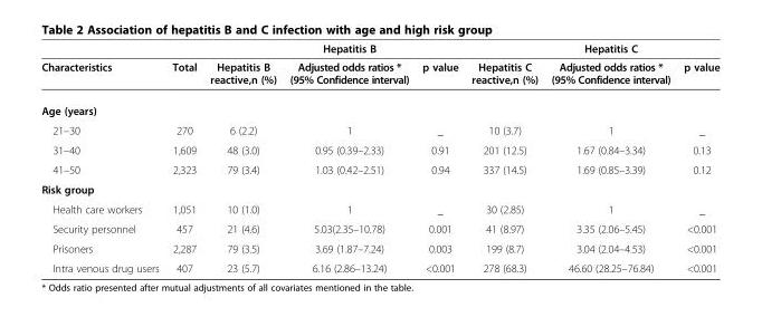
<table><thead><tr><td rowspan="2">Characteristics</td><td rowspan="2">Total</td><td rowspan="2">Hepatitis B reactive,n (%)</td><td rowspan="2">Hepatitis B Adjusted odds ratios * (95% Confidence interval)</td><td rowspan="2">p value</td><td rowspan="2">Hepatitis C reactive,n (%)</td><td rowspan="2">Hepatitis C Adjusted odds ratios * (95% Confidence interval)</td><td rowspan="2">p value</td></tr><tr></tr></thead><tbody><tr><td colspan="8">Age (years)</td></tr><tr><td>21–30</td><td>270</td><td>6 (2.2)</td><td>1</td><td>_</td><td>10 (3.7)</td><td>1</td><td>_</td></tr><tr><td>31–40</td><td>1,609</td><td>48 (3.0)</td><td>0.95 (0.39–2.33)</td><td>0.91</td><td>201 (12.5)</td><td>1.67 (0.84–3.34)</td><td>0.13</td></tr><tr><td>41–50</td><td>2,323</td><td>79 (3.4)</td><td>1.03 (0.42–2.51)</td><td>0.94</td><td>337 (14.5)</td><td>1.69 (0.85–3.39)</td><td>0.12</td></tr><tr><td colspan="8">Risk group</td></tr><tr><td>Health care workers</td><td>1,051</td><td>10 (1.0)</td><td>1</td><td>_</td><td>30 (2.85)</td><td>1</td><td>_</td></tr><tr><td>Security personnel</td><td>457</td><td>21 (4.6)</td><td>5.03(2.35–10.78)</td><td>0.001</td><td>41 (8.97)</td><td>3.35 (2.06–5.45)</td><td>&lt;0.001</td></tr><tr><td>Prisoners</td><td>2,287</td><td>79 (3.5)</td><td>3.69 (1.87–7.24)</td><td>0.003</td><td>199 (8.7)</td><td>3.04 (2.04–4.53)</td><td>&lt;0.001</td></tr><tr><td>Intra venous drug users</td><td>407</td><td>23 (5.7)</td><td>6.16 (2.86–13.24)</td><td>&lt;0.001</td><td>278 (68.3)</td><td>46.60 (28.25–76.84)</td><td>&lt;0.001</td></tr></tbody></table>